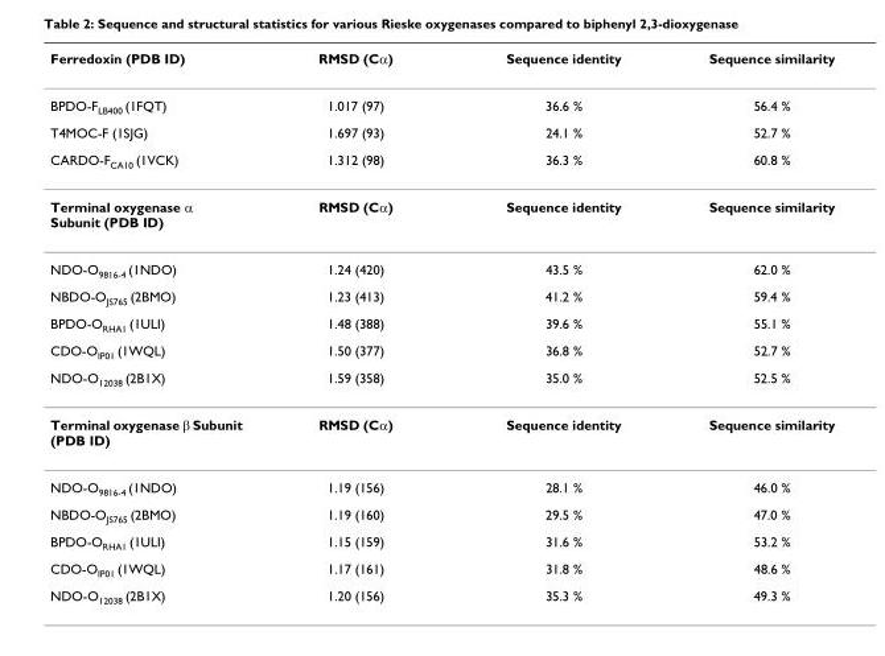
<table><thead><tr><td>Ferredoxin (PDB ID)</td><td>RMSD (Cα)</td><td>Sequence identity</td><td>Sequence similarity</td></tr></thead><tbody><tr><td>BPDO-FLB400 (1FQT)</td><td>1.017 (97)</td><td>36.6 %</td><td>56.4 %</td></tr><tr><td>T4MOC-F (1SJG)</td><td>1.697 (93)</td><td>24.1 %</td><td>52.7 %</td></tr><tr><td>CARDO-FCA10 (1VCK)</td><td>1.312 (98)</td><td>36.3 %</td><td>60.8 %</td></tr><tr><td>Terminal oxygenase α Subunit (PDB ID)</td><td>RMSD (Cα)</td><td>Sequence identity</td><td>Sequence similarity</td></tr><tr><td>NDO-O9816-4 (1NDO)</td><td>1.24 (420)</td><td>43.5 %</td><td>62.0 %</td></tr><tr><td>NBDO-OJS765 (2BMO)</td><td>1.23 (413)</td><td>41.2 %</td><td>59.4 %</td></tr><tr><td>BPDO-ORHA1 (1ULI)</td><td>1.48 (388)</td><td>39.6 %</td><td>55.1 %</td></tr><tr><td>CDO-OIP01 (1WQL)</td><td>1.50 (377)</td><td>36.8 %</td><td>52.7 %</td></tr><tr><td>NDO-O12038 (2B1X)</td><td>1.59 (358)</td><td>35.0 %</td><td>52.5 %</td></tr><tr><td>Terminal oxygenase β Subunit (PDB ID)</td><td>RMSD (Cα)</td><td>Sequence identity</td><td>Sequence similarity</td></tr><tr><td>NDO-O9816-4 (1NDO)</td><td>1.19 (156)</td><td>28.1 %</td><td>46.0 %</td></tr><tr><td>NBDO-OJS765 (2BMO)</td><td>1.19 (160)</td><td>29.5 %</td><td>47.0 %</td></tr><tr><td>BPDO-ORHA1 (1ULI)</td><td>1.15 (159)</td><td>31.6 %</td><td>53.2 %</td></tr><tr><td>CDO-OIP01 (1WQL)</td><td>1.17 (161)</td><td>31.8 %</td><td>48.6 %</td></tr><tr><td>NDO-O12038 (2B1X)</td><td>1.20 (156)</td><td>35.3 %</td><td>49.3 %</td></tr></tbody></table>